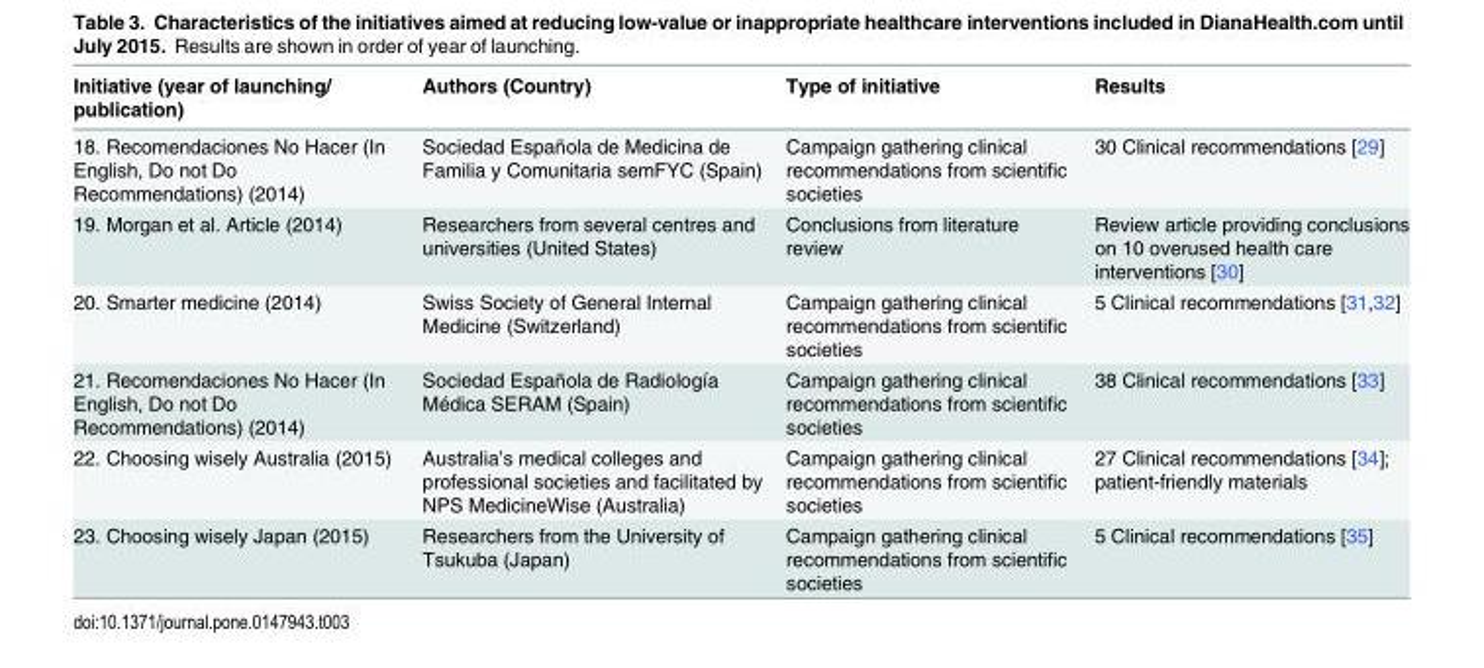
<table><thead><tr><td>Initiative (year of launching/ publication)</td><td>Authors (Country)</td><td>Type of initiative</td><td>Results</td></tr></thead><tbody><tr><td>18. Recomendaciones No Hacer (In English, Do not Do Recommendations) (2014)</td><td>Sociedad Española de Medicina de Familia y Comunitaria semFYC (Spain)</td><td>Campaign gathering clinical recommendations from scientific societies</td><td>30 Clinical recommendations [29]</td></tr><tr><td>19. Morgan et al. Article (2014)</td><td>Researchers from several centres and universities (United States)</td><td>Conclusions from literature review</td><td>Review article providing conclusions on 10 overused health care interventions [30]</td></tr><tr><td>20. Smarter medicine (2014)</td><td>Swiss Society of General Internal Medicine (Switzerland)</td><td>Campaign gathering clinical recommendations from scientific societies</td><td>5 Clinical recommendations [31,32]</td></tr><tr><td>21. Recomendaciones No Hacer (In English, Do not Do Recommendations) (2014)</td><td>Sociedad Española de Radiología Médica SERAM (Spain)</td><td>Campaign gathering clinical recommendations from scientific societies</td><td>38 Clinical recommendations [33]</td></tr><tr><td>22. Choosing wisely Australia (2015)</td><td>Australia’s medical colleges and professional societies and facilitated by NPS MedicineWise (Australia)</td><td>Campaign gathering clinical recommendations from scientific societies</td><td>27 Clinical recommendations [34]; patient-friendly materials</td></tr><tr><td>23. Choosing wisely Japan (2015)</td><td>Researchers from the University of Tsukuba (Japan)</td><td>Campaign gathering clinical recommendations from scientific societies</td><td>5 Clinical recommendations [35]</td></tr></tbody></table>